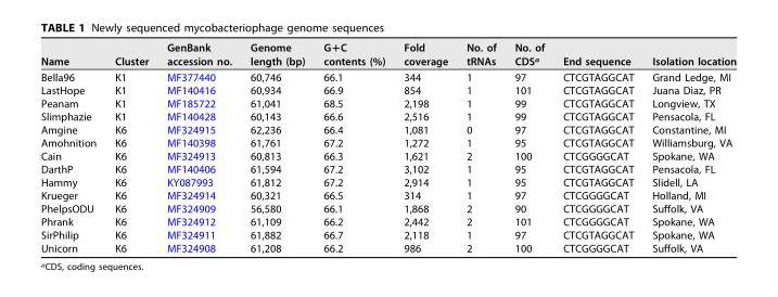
<table><thead><tr><td>Name</td><td>Cluster</td><td>GenBank accession no.</td><td>Genome length (bp)</td><td>G+C contents (%)</td><td>Fold coverage</td><td>No. of tRNAs</td><td>No. of CDS<sup>a</sup></td><td>End sequence</td><td>Isolation location</td></tr></thead><tbody><tr><td>Bella96</td><td>K1</td><td>MF377440</td><td>60,746</td><td>66.1</td><td>344</td><td>1</td><td>97</td><td>CTCGTAGGCAT</td><td>Grand Ledge, MI</td></tr><tr><td>LastHope</td><td>K1</td><td>MF140416</td><td>60,934</td><td>66.9</td><td>854</td><td>1</td><td>101</td><td>CTCGTAGGCAT</td><td>Juana Diaz, PR</td></tr><tr><td>Peanam</td><td>K1</td><td>MF185722</td><td>61,041</td><td>68.5</td><td>2,198</td><td>1</td><td>99</td><td>CTCGTAGGCAT</td><td>Longview, TX</td></tr><tr><td>Slimphazie</td><td>K1</td><td>MF140428</td><td>60,143</td><td>66.6</td><td>2,516</td><td>1</td><td>99</td><td>CTCGTAGGCAT</td><td>Pensacola, FL</td></tr><tr><td>Amgine</td><td>K6</td><td>MF324915</td><td>62,236</td><td>66.4</td><td>1,081</td><td>0</td><td>97</td><td>CTCGTAGGCAT</td><td>Constantine, MI</td></tr><tr><td>Amohnition</td><td>K6</td><td>MF140398</td><td>61,761</td><td>67.2</td><td>1,272</td><td>1</td><td>95</td><td>CTCGTAGGCAT</td><td>Williamsburg, VA</td></tr><tr><td>Cain</td><td>K6</td><td>MF324913</td><td>60,813</td><td>66.3</td><td>1,621</td><td>2</td><td>100</td><td>CTCGGGGCAT</td><td>Spokane, WA</td></tr><tr><td>DarthP</td><td>K6</td><td>MF140406</td><td>61,594</td><td>67.2</td><td>3,102</td><td>1</td><td>95</td><td>CTCGTAGGCAT</td><td>Pensacola, FL</td></tr><tr><td>Hammy</td><td>K6</td><td>KY087993</td><td>61,812</td><td>67.2</td><td>2,914</td><td>1</td><td>95</td><td>CTCGTAGGCAT</td><td>Slidell, LA</td></tr><tr><td>Krueger</td><td>K6</td><td>MF324914</td><td>60,321</td><td>66.5</td><td>314</td><td>1</td><td>97</td><td>CTCGGGGCAT</td><td>Holland, MI</td></tr><tr><td>PhelpsODU</td><td>K6</td><td>MF324909</td><td>56,580</td><td>66.1</td><td>1,868</td><td>2</td><td>90</td><td>CTCGGGGCAT</td><td>Suffolk, VA</td></tr><tr><td>Phrank</td><td>K6</td><td>MF324912</td><td>61,109</td><td>66.2</td><td>2,442</td><td>2</td><td>101</td><td>CTCGGGGCAT</td><td>Spokane, WA</td></tr><tr><td>SirPhilip</td><td>K6</td><td>MF324911</td><td>61,882</td><td>66.7</td><td>2,118</td><td>1</td><td>97</td><td>CTCGTAGGCAT</td><td>Spokane, WA</td></tr><tr><td>Unicorn</td><td>K6</td><td>MF324908</td><td>61,208</td><td>66.2</td><td>986</td><td>2</td><td>100</td><td>CTCGGGGCAT</td><td>Suffolk, VA</td></tr></tbody></table>